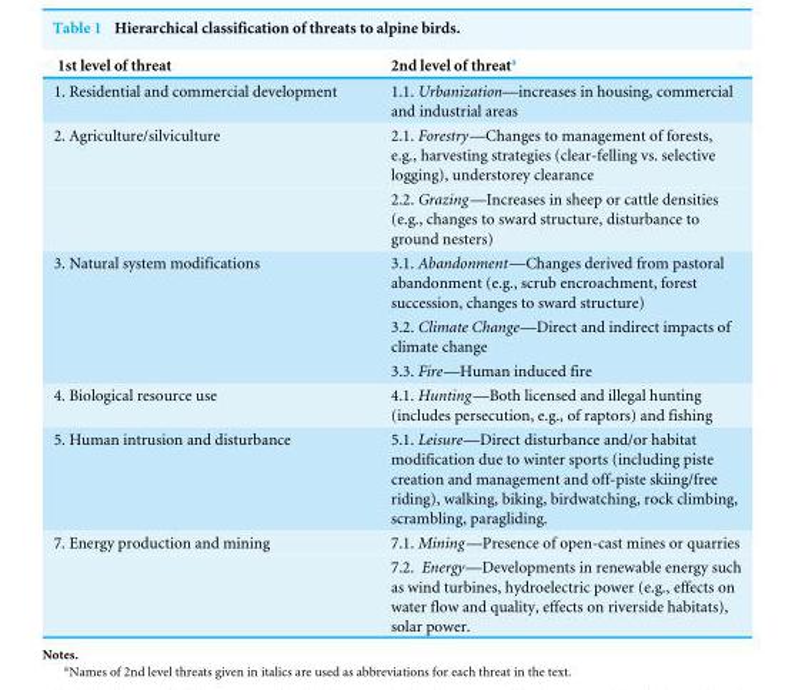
<table><thead><tr><td>1st level of threat</td><td>2nd level of threat<sup>a</sup></td></tr></thead><tbody><tr><td>1. Residential and commercial development</td><td>1.1. Urbanization—increases in housing, commercial and industrial areas</td></tr><tr><td rowspan="2">2. Agriculture/silviculture</td><td>2.1. Forestry—Changes to management of forests, e.g., harvesting strategies (clear-felling vs. selective logging), understorey clearance</td></tr><tr><td>2.2. Grazing—Increases in sheep or cattle densities (e.g., changes to sward structure, disturbance to ground nesters)</td></tr><tr><td rowspan="3">3. Natural system modifications</td><td>3.1. Abandonment—Changes derived from pastoral abandonment (e.g., scrub encroachment, forest succession, changes to sward structure)</td></tr><tr><td>3.2. Climate Change—Direct and indirect impacts of climate change</td></tr><tr><td>3.3. Fire—Human induced fire</td></tr><tr><td>4. Biological resource use</td><td>4.1. Hunting—Both licensed and illegal hunting (includes persecution, e.g., of raptors) and fishing</td></tr><tr><td>5. Human intrusion and disturbance</td><td>5.1. Leisure—Direct disturbance and/or habitat modification due to winter sports (including piste creation and management and off-piste skiing/free riding), walking, biking, birdwatching, rock climbing, scrambling, paragliding.</td></tr><tr><td rowspan="2">7. Energy production and mining</td><td>7.1. Mining—Presence of open-cast mines or quarries</td></tr><tr><td>7.2. Energy—Developments in renewable energy such as wind turbines, hydroelectric power (e.g., effects on water flow and quality, effects on riverside habitats), solar power.</td></tr></tbody></table>